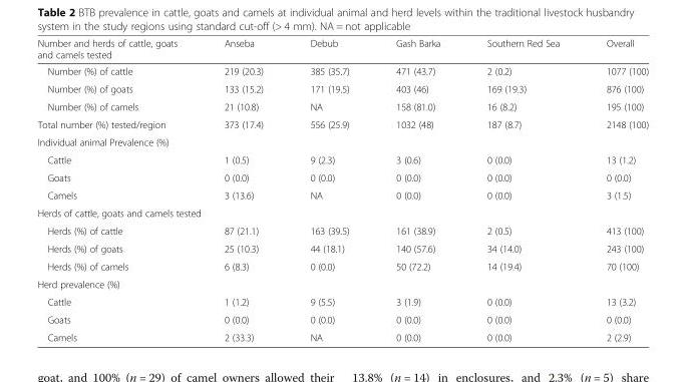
<table><thead><tr><td>Number and herds of cattle, goats and camels tested</td><td>Anseba</td><td>Debub</td><td>Gash Barka</td><td>Southern Red Sea</td><td>Overall</td></tr></thead><tbody><tr><td>Number (%) of cattle</td><td>219 (20.3)</td><td>385 (35.7)</td><td>471 (43.7)</td><td>2 (0.2)</td><td>1077 (100)</td></tr><tr><td>Number (%) of goats</td><td>133 (15.2)</td><td>171 (19.5)</td><td>403 (46)</td><td>169 (19.3)</td><td>876 (100)</td></tr><tr><td>Number (%) of camels</td><td>21 (10.8)</td><td>NA</td><td>158 (81.0)</td><td>16 (8.2)</td><td>195 (100)</td></tr><tr><td>Total number (%) tested/region</td><td>373 (17.4)</td><td>556 (25.9)</td><td>1032 (48)</td><td>187 (8.7)</td><td>2148 (100)</td></tr><tr><td colspan="6">Individual animal Prevalence (%)</td></tr><tr><td>Cattle</td><td>1 (0.5)</td><td>9 (2.3)</td><td>3 (0.6)</td><td>0 (0.0)</td><td>13 (1.2)</td></tr><tr><td>Goats</td><td>0 (0.0)</td><td>0 (0.0)</td><td>0 (0.0)</td><td>0 (0.0)</td><td>0 (0.0)</td></tr><tr><td>Camels</td><td>3 (13.6)</td><td>NA</td><td>0 (0.0)</td><td>0 (0.0)</td><td>3 (1.5)</td></tr><tr><td colspan="6">Herds of cattle, goats and camels tested</td></tr><tr><td>Herds (%) of cattle</td><td>87 (21.1)</td><td>163 (39.5)</td><td>161 (38.9)</td><td>2 (0.5)</td><td>413 (100)</td></tr><tr><td>Herds (%) of goats</td><td>25 (10.3)</td><td>44 (18.1)</td><td>140 (57.6)</td><td>34 (14.0)</td><td>243 (100)</td></tr><tr><td>Herds (%) of camels</td><td>6 (8.3)</td><td>0 (0.0)</td><td>50 (72.2)</td><td>14 (19.4)</td><td>70 (100)</td></tr><tr><td colspan="6">Herd prevalence (%)</td></tr><tr><td>Cattle</td><td>1 (1.2)</td><td>9 (5.5)</td><td>3 (1.9)</td><td>0 (0.0)</td><td>13 (3.2)</td></tr><tr><td>Goats</td><td>0 (0.0)</td><td>0 (0.0)</td><td>0 (0.0)</td><td>0 (0.0)</td><td>0 (0.0)</td></tr><tr><td>Camels</td><td>2 (33.3)</td><td>NA</td><td>0 (0.0)</td><td>0 (0.0)</td><td>2 (2.9)</td></tr></tbody></table>